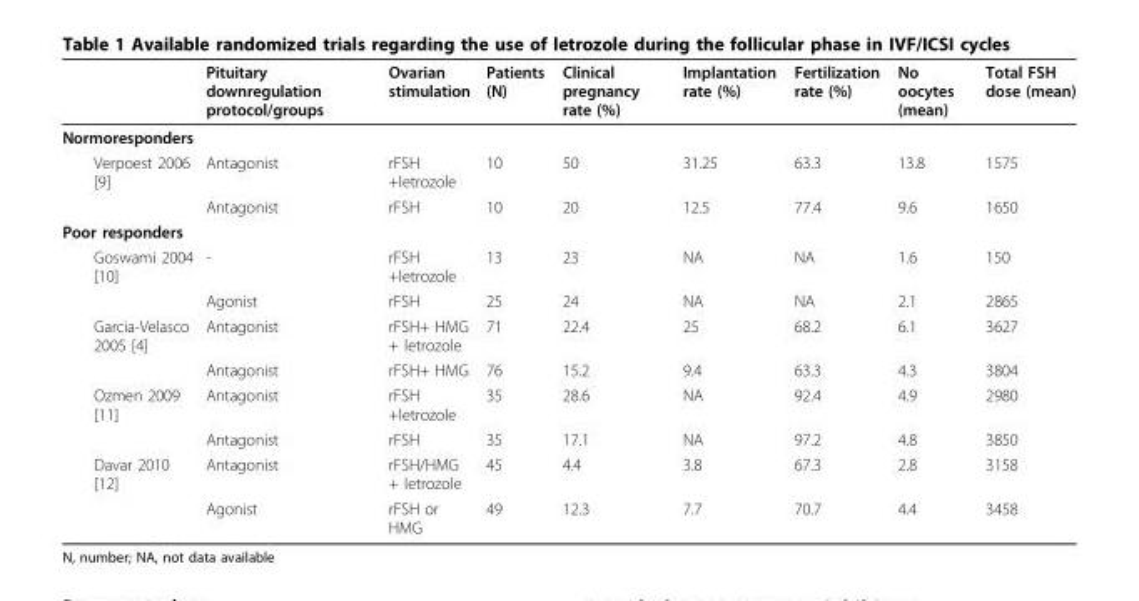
<table><thead><tr><td></td><td>Pituitary downregulation protocol/groups</td><td>Ovarian stimulation</td><td>Patients (N)</td><td>Clinical pregnancy rate (%)</td><td>Implantation rate (%)</td><td>Fertilization rate (%)</td><td>No oocytes (mean)</td><td>Total FSH dose (mean)</td></tr></thead><tbody><tr><td colspan="9">Normoresponders</td></tr><tr><td rowspan="2">Verpoest 2006 [9]</td><td>Antagonist</td><td>rFSH +letrozole</td><td>10</td><td>50</td><td>31.25</td><td>63.3</td><td>13.8</td><td>1575</td></tr><tr><td>Antagonist</td><td>rFSH</td><td>10</td><td>20</td><td>12.5</td><td>77.4</td><td>9.6</td><td>1650</td></tr><tr><td colspan="9">Poor responders</td></tr><tr><td rowspan="2">Goswami 2004 [10]</td><td>-</td><td>rFSH +letrozole</td><td>13</td><td>23</td><td>NA</td><td>NA</td><td>1.6</td><td>150</td></tr><tr><td>Agonist</td><td>rFSH</td><td>25</td><td>24</td><td>NA</td><td>NA</td><td>2.1</td><td>2865</td></tr><tr><td rowspan="2">Garcia-Velasco 2005 [4]</td><td>Antagonist</td><td>rFSH+ HMG + letrozole</td><td>71</td><td>22.4</td><td>25</td><td>68.2</td><td>6.1</td><td>3627</td></tr><tr><td>Antagonist</td><td>rFSH+ HMG</td><td>76</td><td>15.2</td><td>9.4</td><td>63.3</td><td>4.3</td><td>3804</td></tr><tr><td rowspan="2">Ozmen 2009 [11]</td><td>Antagonist</td><td>rFSH +letrozole</td><td>35</td><td>28.6</td><td>NA</td><td>92.4</td><td>4.9</td><td>2980</td></tr><tr><td>Antagonist</td><td>rFSH</td><td>35</td><td>17.1</td><td>NA</td><td>97.2</td><td>4.8</td><td>3850</td></tr><tr><td rowspan="2">Davar 2010 [12]</td><td>Antagonist</td><td>rFSH/HMG + letrozole</td><td>45</td><td>4.4</td><td>3.8</td><td>67.3</td><td>2.8</td><td>3158</td></tr><tr><td>Agonist</td><td>rFSH or HMG</td><td>49</td><td>12.3</td><td>7.7</td><td>70.7</td><td>4.4</td><td>3458</td></tr></tbody></table>